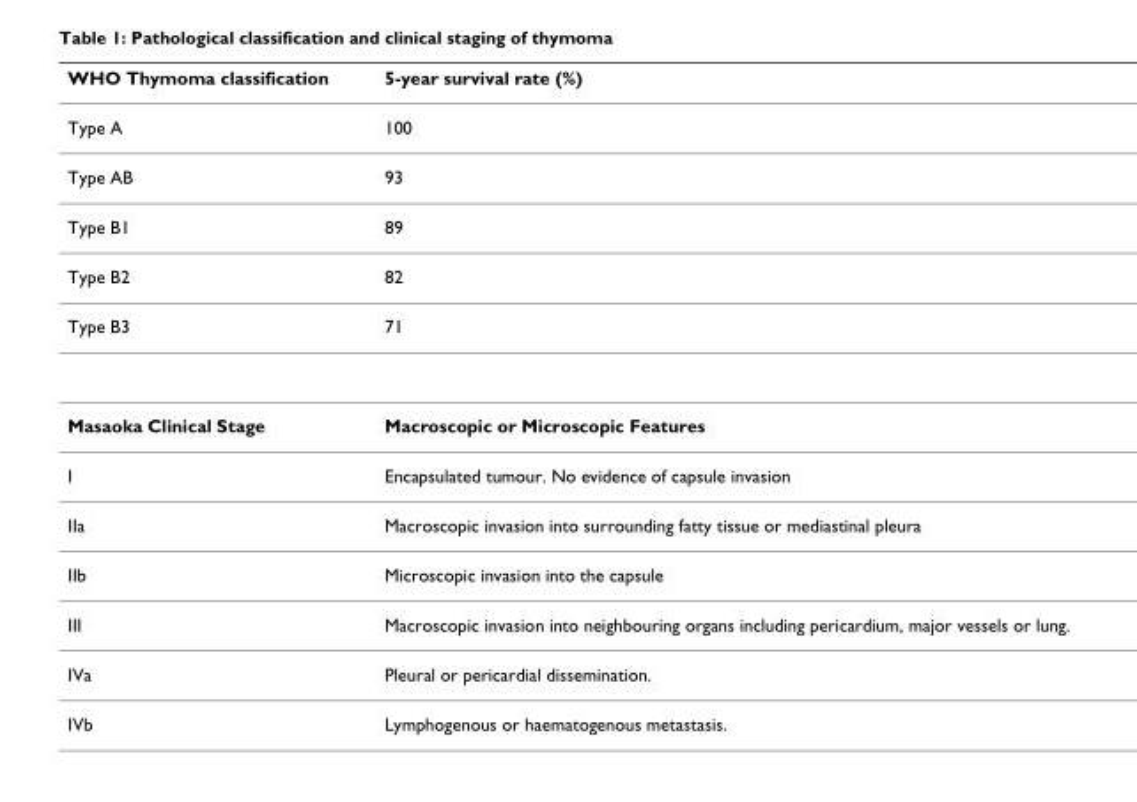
<table><thead><tr><td>WHO Thymoma classification</td><td>5-year survival rate (%)</td></tr></thead><tbody><tr><td>Type A</td><td>100</td></tr><tr><td>Type AB</td><td>93</td></tr><tr><td>Type B1</td><td>89</td></tr><tr><td>Type B2</td><td>82</td></tr><tr><td>Type B3</td><td>71</td></tr><tr><td>Masaoka Clinical Stage</td><td>Macroscopic or Microscopic Features</td></tr><tr><td>I</td><td>Encapsulated tumour. No evidence of capsule invasion</td></tr><tr><td>IIa</td><td>Macroscopic invasion into surrounding fatty tissue or mediastinal pleura</td></tr><tr><td>IIb</td><td>Microscopic invasion into the capsule</td></tr><tr><td>III</td><td>Macroscopic invasion into neighbouring organs including pericardium, major vessels or lung.</td></tr><tr><td>IVa</td><td>Pleural or pericardial dissemination.</td></tr><tr><td>IVb</td><td>Lymphogenous or haematogenous metastasis.</td></tr></tbody></table>